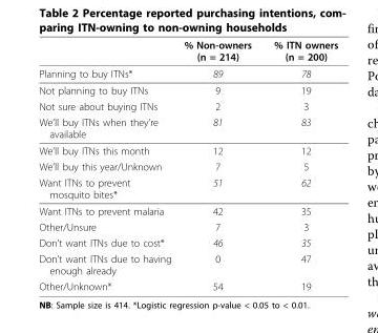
<table><thead><tr><td></td><td>% Non-owners (n = 214)</td><td>% ITN owners (n = 200)</td></tr></thead><tbody><tr><td>Planning to buy ITNs*</td><td>89</td><td>78</td></tr><tr><td>Not planning to buy ITNs</td><td>9</td><td>19</td></tr><tr><td>Not sure about buying ITNs</td><td>2</td><td>3</td></tr><tr><td>We’ll buy ITNs when they’re available</td><td>81</td><td>83</td></tr><tr><td>We’ll buy ITNs this month</td><td>12</td><td>12</td></tr><tr><td>We’ll buy this year/Unknown</td><td>7</td><td>5</td></tr><tr><td>Want ITNs to prevent mosquito bites*</td><td>51</td><td>62</td></tr><tr><td>Want ITNs to prevent malaria</td><td>42</td><td>35</td></tr><tr><td>Other/Unsure</td><td>7</td><td>3</td></tr><tr><td>Don’t want ITNs due to cost*</td><td>46</td><td>35</td></tr><tr><td>Don’t want ITNs due to having enough already</td><td>0</td><td>47</td></tr><tr><td>Other/Unknown*</td><td>54</td><td>19</td></tr></tbody></table>